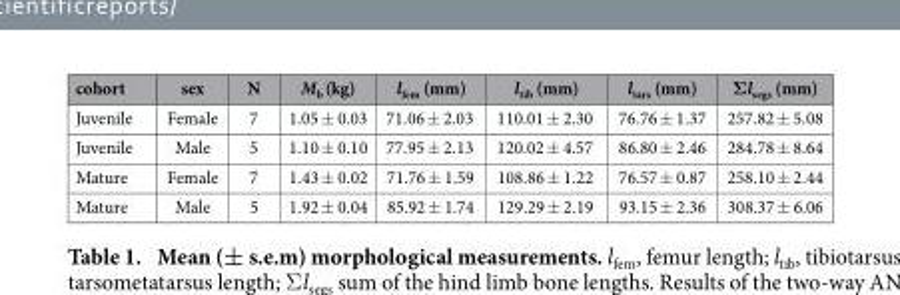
<table><thead><tr><td>cohort</td><td>sex</td><td>N</td><td>M<sub>b</sub> (kg)</td><td>l<sub>fem</sub> (mm)</td><td>l<sub>tib</sub> (mm)</td><td>l<sub>tars</sub> (mm)</td><td>Σl<sub>segs</sub> (mm)</td></tr></thead><tbody><tr><td>Juvenile</td><td>Female</td><td>7</td><td>1.05 ± 0.03</td><td>71.06 ± 2.03</td><td>110.01 ± 2.30</td><td>76.76 ± 1.37</td><td>257.82 ± 5.08</td></tr><tr><td>Juvenile</td><td>Male</td><td>5</td><td>1.10 ± 0.10</td><td>77.95 ± 2.13</td><td>120.02 ± 4.57</td><td>86.80 ± 2.46</td><td>284.78 ± 8.64</td></tr><tr><td>Mature</td><td>Female</td><td>7</td><td>1.43 ± 0.02</td><td>71.76 ± 1.59</td><td>108.86 ± 1.22</td><td>76.57 ± 0.87</td><td>258.10 ± 2.44</td></tr><tr><td>Mature</td><td>Male</td><td>5</td><td>1.92 ± 0.04</td><td>85.92 ± 1.74</td><td>129.29 ± 2.19</td><td>93.15 ± 2.36</td><td>308.37 ± 6.06</td></tr></tbody></table>